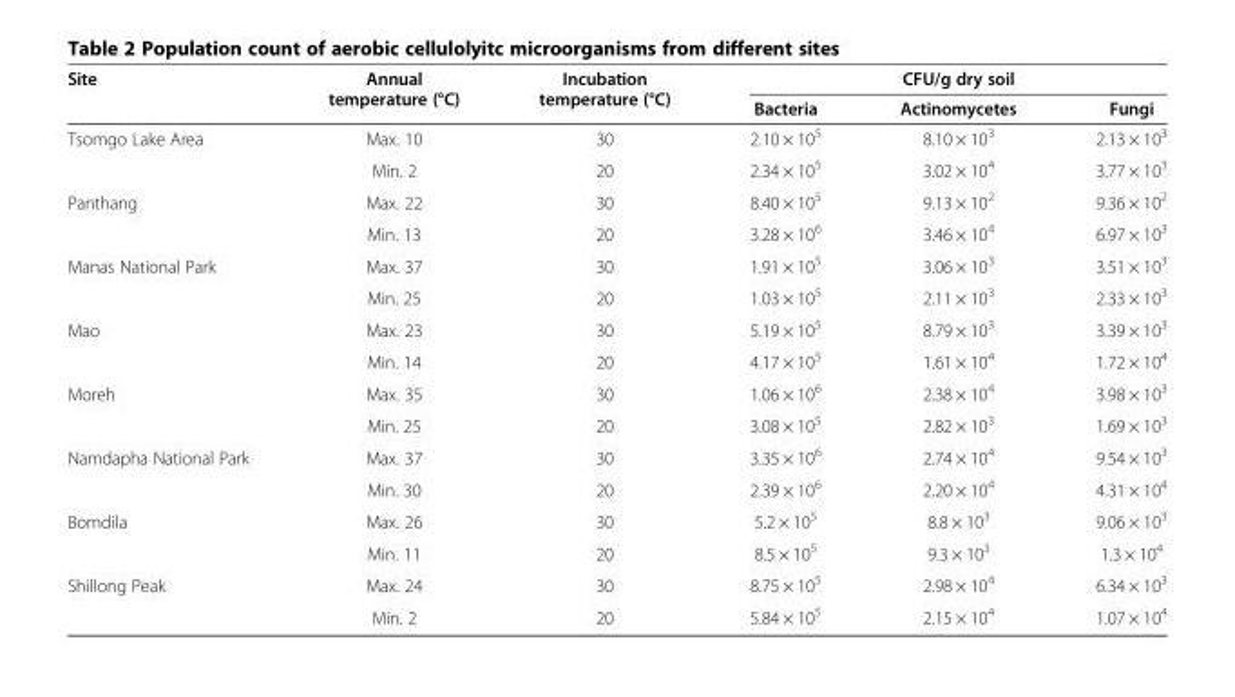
<table><thead><tr><td rowspan="2">Site</td><td rowspan="2">Annual temperature (°C)</td><td rowspan="2">Incubation temperature (°C)</td><td colspan="3">CFU/g dry soil</td></tr><tr><td>Bacteria</td><td>Actinomycetes</td><td>Fungi</td></tr></thead><tbody><tr><td rowspan="2">Tsomgo Lake Area</td><td>Max. 10</td><td>30</td><td>2.10 × 10<sup>5</sup></td><td>8.10 × 10<sup>3</sup></td><td>2.13 × 10<sup>3</sup></td></tr><tr><td>Min. 2</td><td>20</td><td>2.34 × 10<sup>5</sup></td><td>3.02 × 10<sup>4</sup></td><td>3.77 × 10<sup>3</sup></td></tr><tr><td rowspan="2">Panthang</td><td>Max. 22</td><td>30</td><td>8.40 × 10<sup>5</sup></td><td>9.13 × 10<sup>2</sup></td><td>9.36 × 10<sup>2</sup></td></tr><tr><td>Min. 13</td><td>20</td><td>3.28 × 10<sup>6</sup></td><td>3.46 × 10<sup>4</sup></td><td>6.97 × 10<sup>3</sup></td></tr><tr><td rowspan="2">Manas National Park</td><td>Max. 37</td><td>30</td><td>1.91 × 10<sup>5</sup></td><td>3.06 × 10<sup>3</sup></td><td>3.51 × 10<sup>3</sup></td></tr><tr><td>Min. 25</td><td>20</td><td>1.03 × 10<sup>5</sup></td><td>2.11 × 10<sup>3</sup></td><td>2.33 × 10<sup>3</sup></td></tr><tr><td rowspan="2">Mao</td><td>Max. 23</td><td>30</td><td>5.19 × 10<sup>5</sup></td><td>8.79 × 10<sup>3</sup></td><td>3.39 × 10<sup>3</sup></td></tr><tr><td>Min. 14</td><td>20</td><td>4.17 × 10<sup>5</sup></td><td>1.61 × 10<sup>4</sup></td><td>1.72 × 10<sup>4</sup></td></tr><tr><td rowspan="2">Moreh</td><td>Max. 35</td><td>30</td><td>1.06 × 10<sup>6</sup></td><td>2.38 × 10<sup>4</sup></td><td>3.98 × 10<sup>3</sup></td></tr><tr><td>Min. 25</td><td>20</td><td>3.08 × 10<sup>5</sup></td><td>2.82 × 10<sup>3</sup></td><td>1.69 × 10<sup>3</sup></td></tr><tr><td rowspan="2">Namdapha National Park</td><td>Max. 37</td><td>30</td><td>3.35 × 10<sup>6</sup></td><td>2.74 × 10<sup>4</sup></td><td>9.54 × 10<sup>3</sup></td></tr><tr><td>Min. 30</td><td>20</td><td>2.39 × 10<sup>6</sup></td><td>2.20 × 10<sup>4</sup></td><td>4.31 × 10<sup>4</sup></td></tr><tr><td rowspan="2">Bomdila</td><td>Max. 26</td><td>30</td><td>5.2 × 10<sup>5</sup></td><td>8.8 × 10<sup>3</sup></td><td>9.06 × 10<sup>3</sup></td></tr><tr><td>Min. 11</td><td>20</td><td>8.5 × 10<sup>5</sup></td><td>9.3 × 10<sup>3</sup></td><td>1.3 × 10<sup>4</sup></td></tr><tr><td rowspan="2">Shillong Peak</td><td>Max. 24</td><td>30</td><td>8.75 × 10<sup>5</sup></td><td>2.98 × 10<sup>4</sup></td><td>6.34 × 10<sup>3</sup></td></tr><tr><td>Min. 2</td><td>20</td><td>5.84 × 10<sup>5</sup></td><td>2.15 × 10<sup>4</sup></td><td>1.07 × 10<sup>4</sup></td></tr></tbody></table>